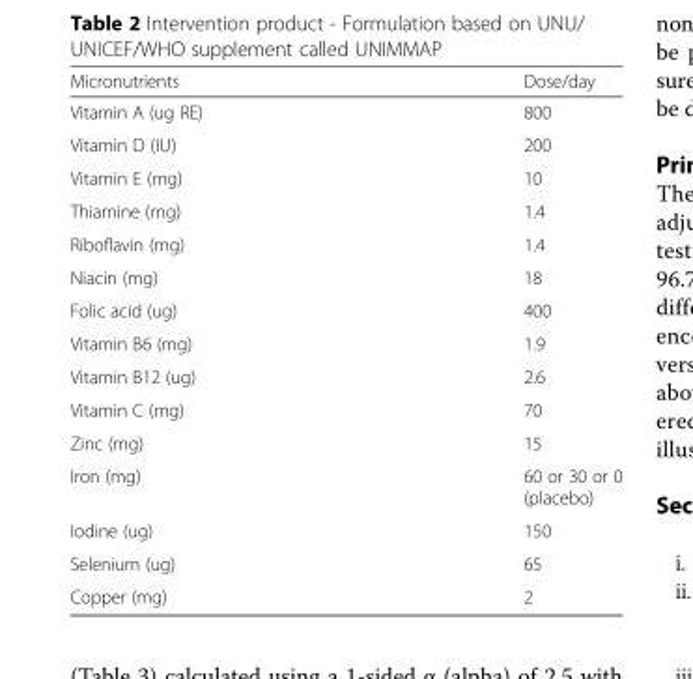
<table><thead><tr><td>Micronutrients</td><td>Dose/day</td></tr></thead><tbody><tr><td>Vitamin A (ug RE)</td><td>800</td></tr><tr><td>Vitamin D (IU)</td><td>200</td></tr><tr><td>Vitamin E (mg)</td><td>10</td></tr><tr><td>Thiamine (mg)</td><td>1.4</td></tr><tr><td>Riboflavin (mg)</td><td>1.4</td></tr><tr><td>Niacin (mg)</td><td>18</td></tr><tr><td>Folic acid (ug)</td><td>400</td></tr><tr><td>Vitamin B6 (mg)</td><td>1.9</td></tr><tr><td>Vitamin B12 (ug)</td><td>2.6</td></tr><tr><td>Vitamin C (mg)</td><td>70</td></tr><tr><td>Zinc (mg)</td><td>15</td></tr><tr><td>Iron (mg)</td><td>60 or 30 or 0 (placebo)</td></tr><tr><td>Iodine (ug)</td><td>150</td></tr><tr><td>Selenium (ug)</td><td>65</td></tr><tr><td>Copper (mg)</td><td>2</td></tr></tbody></table>